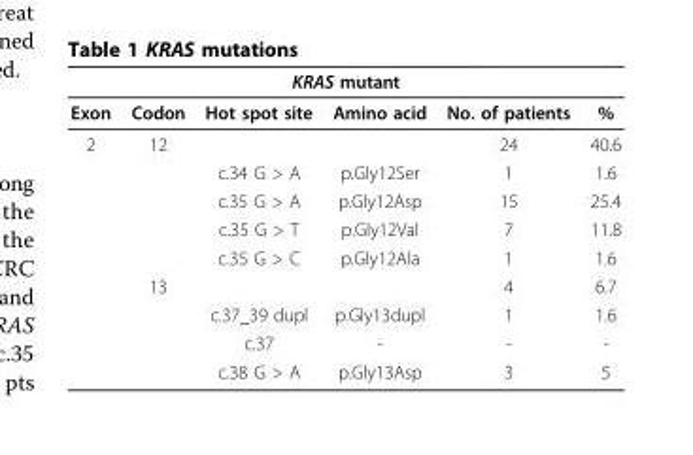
<table><thead><tr><td colspan="6">KRAS mutant</td></tr><tr><td>Exon</td><td>Codon</td><td>Hot spot site</td><td>Amino acid</td><td>No. of patients</td><td>%</td></tr></thead><tbody><tr><td rowspan="9">2</td><td>12</td><td></td><td></td><td>24</td><td>40.6</td></tr><tr><td></td><td>c.34 G &gt; A</td><td>p.Gly12Ser</td><td>1</td><td>1.6</td></tr><tr><td></td><td>c.35 G &gt; A</td><td>p.Gly12Asp</td><td>15</td><td>25.4</td></tr><tr><td></td><td>c.35 G &gt; T</td><td>p.Gly12Val</td><td>7</td><td>11.8</td></tr><tr><td></td><td>c.35 G &gt; C</td><td>p.Gly12Ala</td><td>1</td><td>1.6</td></tr><tr><td>13</td><td></td><td></td><td>4</td><td>6.7</td></tr><tr><td></td><td>c.37_39 dupl</td><td>p.Gly13dupl</td><td>1</td><td>1.6</td></tr><tr><td></td><td>c.37</td><td>-</td><td>-</td><td>-</td></tr><tr><td></td><td>c.38 G &gt; A</td><td>p.Gly13Asp</td><td>3</td><td>5</td></tr></tbody></table>